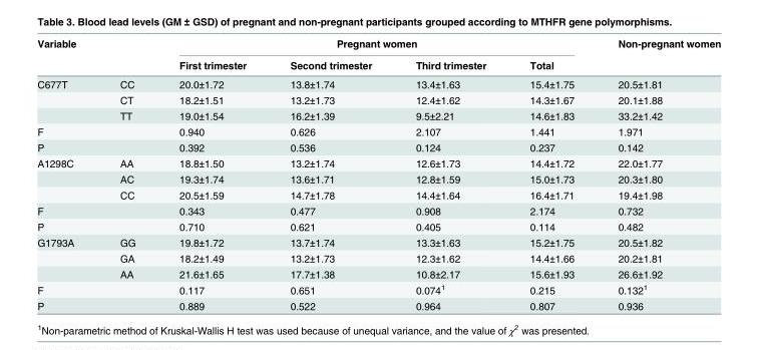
<table><thead><tr><td rowspan="2">Variable</td><td rowspan="2"></td><td colspan="4">Pregnant women</td><td rowspan="2">Non-pregnant women</td></tr><tr><td>First trimester</td><td>Second trimester</td><td>Third trimester</td><td>Total</td></tr></thead><tbody><tr><td rowspan="3">C677T</td><td>CC</td><td>20.0±1.72</td><td>13.8±1.74</td><td>13.4±1.63</td><td>15.4±1.75</td><td>20.5±1.81</td></tr><tr><td>CT</td><td>18.2±1.51</td><td>13.2±1.73</td><td>12.4±1.62</td><td>14.3±1.67</td><td>20.1±1.88</td></tr><tr><td>TT</td><td>19.0±1.54</td><td>16.2±1.39</td><td>9.5±2.21</td><td>14.6±1.83</td><td>33.2±1.42</td></tr><tr><td>F</td><td></td><td>0.940</td><td>0.626</td><td>2.107</td><td>1.441</td><td>1.971</td></tr><tr><td>P</td><td></td><td>0.392</td><td>0.536</td><td>0.124</td><td>0.237</td><td>0.142</td></tr><tr><td rowspan="3">A1298C</td><td>AA</td><td>18.8±1.50</td><td>13.2±1.74</td><td>12.6±1.73</td><td>14.4±1.72</td><td>22.0±1.77</td></tr><tr><td>AC</td><td>19.3±1.74</td><td>13.6±1.71</td><td>12.8±1.59</td><td>15.0±1.73</td><td>20.3±1.80</td></tr><tr><td>CC</td><td>20.5±1.59</td><td>14.7±1.78</td><td>14.4±1.64</td><td>16.4±1.71</td><td>19.4±1.98</td></tr><tr><td>F</td><td></td><td>0.343</td><td>0.477</td><td>0.908</td><td>2.174</td><td>0.732</td></tr><tr><td>P</td><td></td><td>0.710</td><td>0.621</td><td>0.405</td><td>0.114</td><td>0.482</td></tr><tr><td rowspan="3">G1793A</td><td>GG</td><td>19.8±1.72</td><td>13.7±1.74</td><td>13.3±1.63</td><td>15.2±1.75</td><td>20.5±1.82</td></tr><tr><td>GA</td><td>18.2±1.49</td><td>13.2±1.73</td><td>12.3±1.62</td><td>14.4±1.66</td><td>20.2±1.81</td></tr><tr><td>AA</td><td>21.6±1.65</td><td>17.7±1.38</td><td>10.8±2.17</td><td>15.6±1.93</td><td>26.6±1.92</td></tr><tr><td>F</td><td></td><td>0.117</td><td>0.651</td><td>0.074<sup>1</sup></td><td>0.215</td><td>0.132<sup>1</sup></td></tr><tr><td>P</td><td></td><td>0.889</td><td>0.522</td><td>0.964</td><td>0.807</td><td>0.936</td></tr></tbody></table>